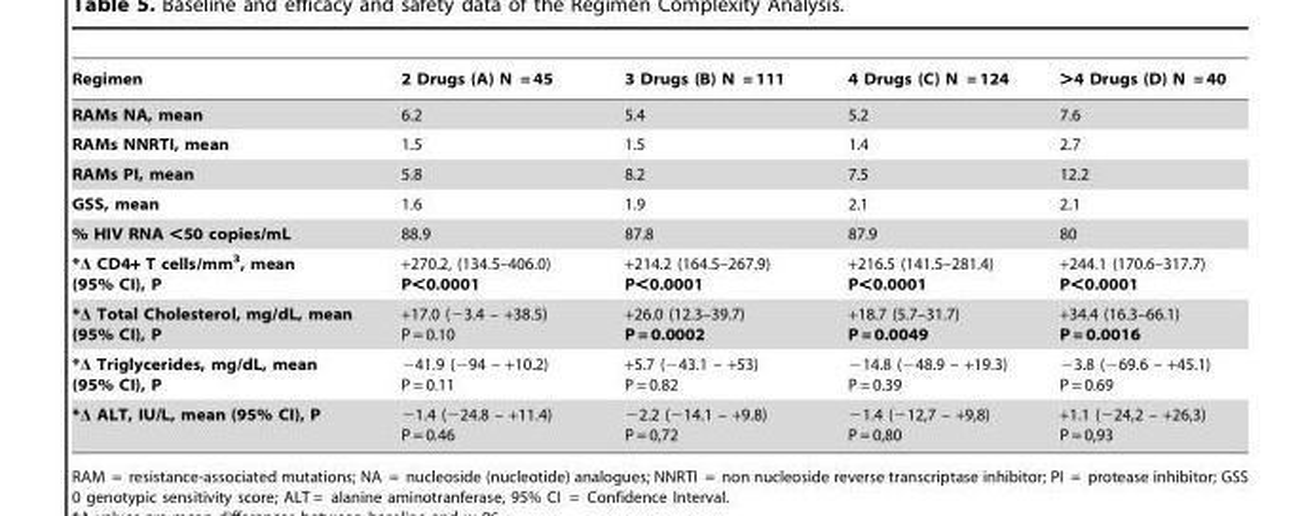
<table><thead><tr><td>Regimen</td><td>2 Drugs (A) N = 45</td><td>3 Drugs (B) N = 111</td><td>4 Drugs (C) N = 124</td><td>&gt;4 Drugs (D) N = 40</td></tr></thead><tbody><tr><td>RAMs NA, mean</td><td>6.2</td><td>5.4</td><td>5.2</td><td>7.6</td></tr><tr><td>RAMs NNRTI, mean</td><td>1.5</td><td>1.5</td><td>1.4</td><td>2.7</td></tr><tr><td>RAMs PI, mean</td><td>5.8</td><td>8.2</td><td>7.5</td><td>12.2</td></tr><tr><td>GSS, mean</td><td>1.6</td><td>1.9</td><td>2.1</td><td>2.1</td></tr><tr><td>% HIV RNA &lt;50 copies/mL</td><td>88.9</td><td>87.8</td><td>87.9</td><td>80</td></tr><tr><td>*Δ CD4+ T cells/mm<sup>3</sup>, mean (95% CI), P</td><td>+270.2, (134.5–406.0) P&lt;0.0001</td><td>+214.2 (164.5–267.9) P&lt;0.0001</td><td>+216.5 (141.5–281.4) P&lt;0.0001</td><td>+244.1 (170.6–317.7) P&lt;0.0001</td></tr><tr><td>*Δ Total Cholesterol, mg/dL, mean (95% CI), P</td><td>+17.0 (−3.4 – +38.5) P = 0.10</td><td>+26.0 (12.3–39.7) P = 0.0002</td><td>+18.7 (5.7–31.7) P = 0.0049</td><td>+34.4 (16.3–66.1) P = 0.0016</td></tr><tr><td>*Δ Triglycerides, mg/dL, mean (95% CI), P</td><td>−41.9 (−94 – +10.2) P = 0.11</td><td>+5.7 (−43.1 – +53) P = 0.82</td><td>−14.8 (−48.9 – +19.3) P = 0.39</td><td>−3.8 (−69.6 – +45.1) P = 0.69</td></tr><tr><td>*Δ ALT, IU/L, mean (95% CI), P</td><td>−1.4 (−24.8 – +11.4) P = 0.46</td><td>−2.2 (−14.1 – +9.8) P = 0,72</td><td>−1.4 (−12,7 – +9,8) P = 0,80</td><td>+1.1 (−24,2 – +26,3) P = 0,93</td></tr></tbody></table>